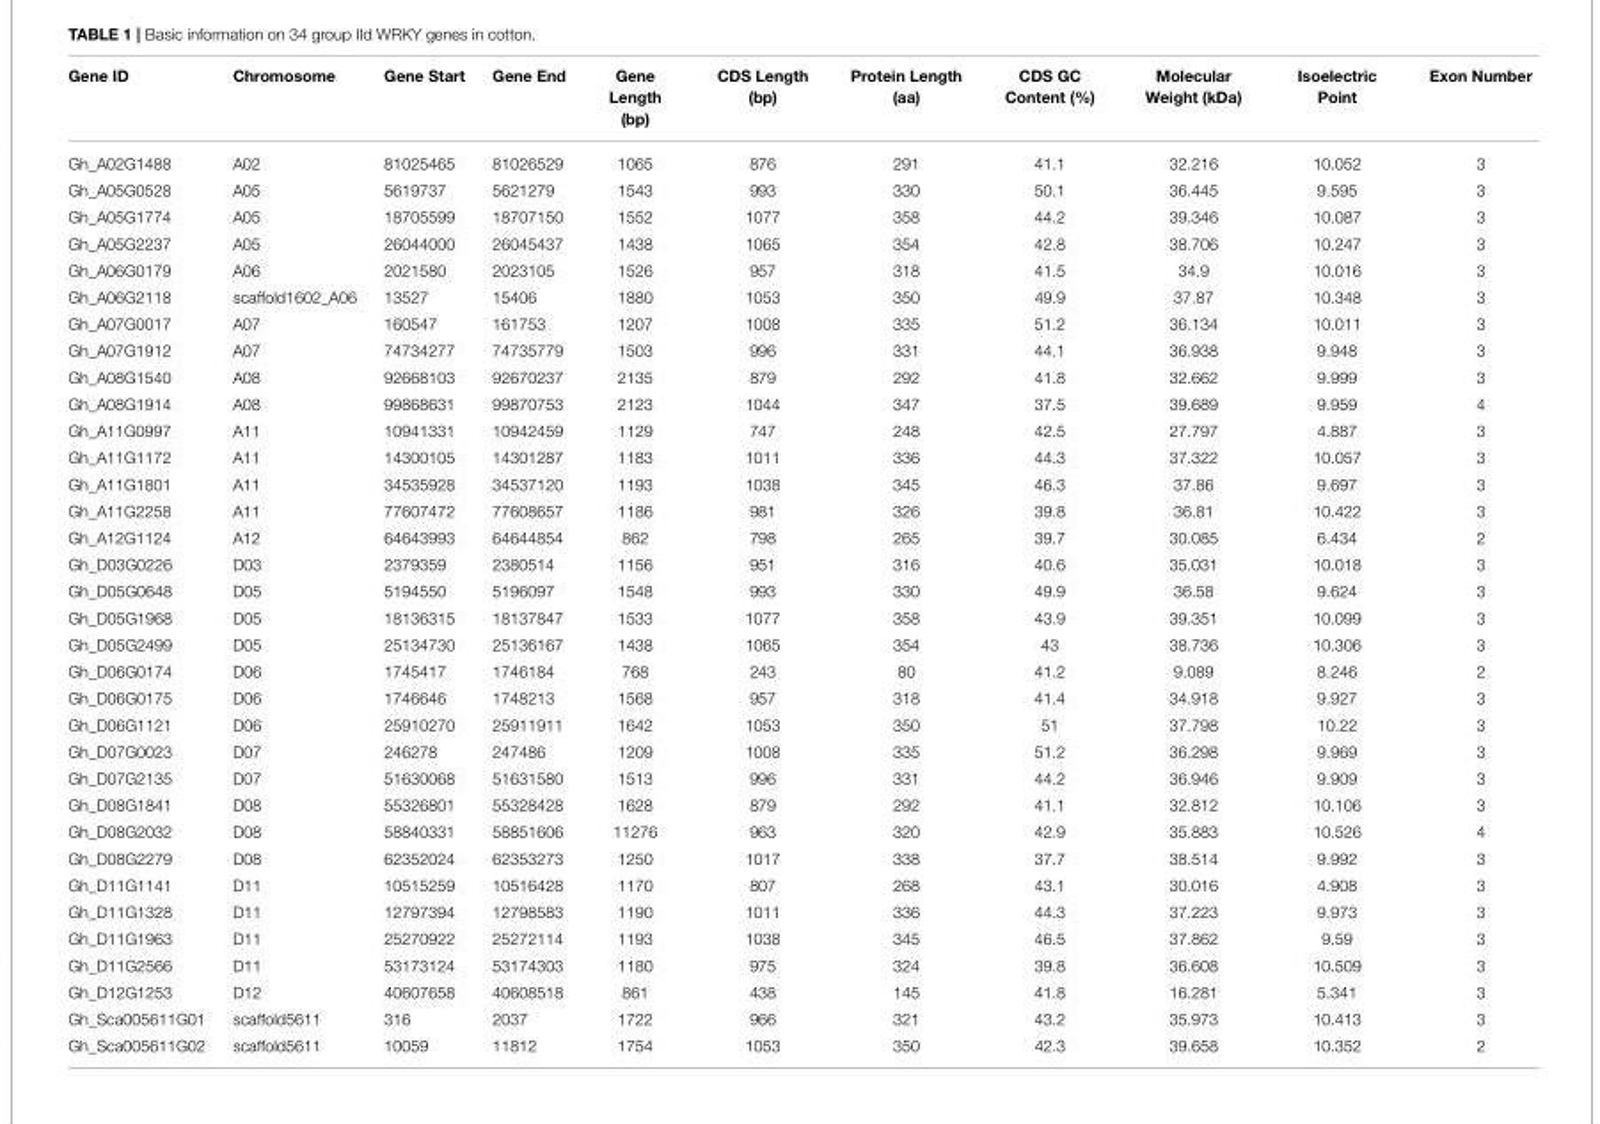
<table><thead><tr><td>Gene ID</td><td>Chromosome</td><td>Gene Start</td><td>Gene End</td><td>Gene Length (bp)</td><td>CDS Length (bp)</td><td>Protein Length (aa)</td><td>CDS GC Content (%)</td><td>Molecular Weight (kDa)</td><td>Isoelectric Point</td><td>Exon Number</td></tr></thead><tbody><tr><td>Gh_A02G1488</td><td>A02</td><td>81025465</td><td>81026529</td><td>1065</td><td>876</td><td>291</td><td>41.1</td><td>32.216</td><td>10.052</td><td>3</td></tr><tr><td>Gh_A05G0528</td><td>A05</td><td>5619737</td><td>5621279</td><td>1543</td><td>993</td><td>330</td><td>50.1</td><td>36.445</td><td>9.595</td><td>3</td></tr><tr><td>Gh_A05G1774</td><td>A05</td><td>18705599</td><td>18707150</td><td>1552</td><td>1077</td><td>358</td><td>44.2</td><td>39.346</td><td>10.087</td><td>3</td></tr><tr><td>Gh_A05G2237</td><td>A05</td><td>26044000</td><td>26045437</td><td>1438</td><td>1065</td><td>354</td><td>42.8</td><td>38.706</td><td>10.247</td><td>3</td></tr><tr><td>Gh_A06G0179</td><td>A06</td><td>2021580</td><td>2023105</td><td>1526</td><td>957</td><td>318</td><td>41.5</td><td>34.9</td><td>10.016</td><td>3</td></tr><tr><td>Gh_A06G2118</td><td>scaffold1602_A06</td><td>13527</td><td>15406</td><td>1880</td><td>1053</td><td>350</td><td>49.9</td><td>37.87</td><td>10.348</td><td>3</td></tr><tr><td>Gh_A07G0017</td><td>A07</td><td>160547</td><td>161753</td><td>1207</td><td>1008</td><td>335</td><td>51.2</td><td>36.134</td><td>10.011</td><td>3</td></tr><tr><td>Gh_A07G1912</td><td>A07</td><td>74734277</td><td>74735779</td><td>1503</td><td>996</td><td>331</td><td>44.1</td><td>36.938</td><td>9.948</td><td>3</td></tr><tr><td>Gh_A08G1540</td><td>A08</td><td>92668103</td><td>92670237</td><td>2135</td><td>879</td><td>292</td><td>41.8</td><td>32.662</td><td>9.999</td><td>3</td></tr><tr><td>Gh_A08G1914</td><td>A08</td><td>99868631</td><td>99870753</td><td>2123</td><td>1044</td><td>347</td><td>37.5</td><td>39.689</td><td>9.959</td><td>4</td></tr><tr><td>Gh_A11G0997</td><td>A11</td><td>10941331</td><td>10942459</td><td>1129</td><td>747</td><td>248</td><td>42.5</td><td>27.797</td><td>4.887</td><td>3</td></tr><tr><td>Gh_A11G1172</td><td>A11</td><td>14300105</td><td>14301287</td><td>1183</td><td>1011</td><td>336</td><td>44.3</td><td>37.322</td><td>10.057</td><td>3</td></tr><tr><td>Gh_A11G1801</td><td>A11</td><td>34535928</td><td>34537120</td><td>1193</td><td>1038</td><td>345</td><td>46.3</td><td>37.86</td><td>9.697</td><td>3</td></tr><tr><td>Gh_A11G2258</td><td>A11</td><td>77607472</td><td>77608657</td><td>1186</td><td>981</td><td>326</td><td>39.8</td><td>36.81</td><td>10.422</td><td>3</td></tr><tr><td>Gh_A12G1124</td><td>A12</td><td>64643993</td><td>64644854</td><td>862</td><td>798</td><td>265</td><td>39.7</td><td>30.085</td><td>6.434</td><td>2</td></tr><tr><td>Gh_D03G0226</td><td>D03</td><td>2379359</td><td>2380514</td><td>1156</td><td>951</td><td>316</td><td>40.6</td><td>35.031</td><td>10.018</td><td>3</td></tr><tr><td>Gh_D05G0648</td><td>D05</td><td>5194550</td><td>5196097</td><td>1548</td><td>993</td><td>330</td><td>49.9</td><td>36.58</td><td>9.624</td><td>3</td></tr><tr><td>Gh_D05G1968</td><td>D05</td><td>18136315</td><td>18137847</td><td>1533</td><td>1077</td><td>358</td><td>43.9</td><td>39.351</td><td>10.099</td><td>3</td></tr><tr><td>Gh_D05G2499</td><td>D05</td><td>25134730</td><td>25136167</td><td>1438</td><td>1065</td><td>354</td><td>43</td><td>38.736</td><td>10.306</td><td>3</td></tr><tr><td>Gh_D06G0174</td><td>D06</td><td>1745417</td><td>1746184</td><td>768</td><td>243</td><td>80</td><td>41.2</td><td>9.089</td><td>8.246</td><td>2</td></tr><tr><td>Gh_D06G0175</td><td>D06</td><td>1746646</td><td>1748213</td><td>1568</td><td>957</td><td>318</td><td>41.4</td><td>34.918</td><td>9.927</td><td>3</td></tr><tr><td>Gh_D06G1121</td><td>D06</td><td>25910270</td><td>25911911</td><td>1642</td><td>1053</td><td>350</td><td>51</td><td>37.798</td><td>10.22</td><td>3</td></tr><tr><td>Gh_D07G0023</td><td>D07</td><td>246278</td><td>247486</td><td>1209</td><td>1008</td><td>335</td><td>51.2</td><td>36.298</td><td>9.969</td><td>3</td></tr><tr><td>Gh_D07G2135</td><td>D07</td><td>51630068</td><td>51631580</td><td>1513</td><td>996</td><td>331</td><td>44.2</td><td>36.946</td><td>9.909</td><td>3</td></tr><tr><td>Gh_D08G1841</td><td>D08</td><td>55326801</td><td>55328428</td><td>1628</td><td>879</td><td>292</td><td>41.1</td><td>32.812</td><td>10.106</td><td>3</td></tr><tr><td>Gh_D08G2032</td><td>D08</td><td>58840331</td><td>58851606</td><td>11276</td><td>963</td><td>320</td><td>42.9</td><td>35.883</td><td>10.526</td><td>4</td></tr><tr><td>Gh_D08G2279</td><td>D08</td><td>62352024</td><td>62353273</td><td>1250</td><td>1017</td><td>338</td><td>37.7</td><td>38.514</td><td>9.992</td><td>3</td></tr><tr><td>Gh_D11G1141</td><td>D11</td><td>10515259</td><td>10516428</td><td>1170</td><td>807</td><td>268</td><td>43.1</td><td>30.016</td><td>4.908</td><td>3</td></tr><tr><td>Gh_D11G1328</td><td>D11</td><td>12797394</td><td>12798583</td><td>1190</td><td>1011</td><td>336</td><td>44.3</td><td>37.223</td><td>9.973</td><td>3</td></tr><tr><td>Gh_D11G1963</td><td>D11</td><td>25270922</td><td>25272114</td><td>1193</td><td>1038</td><td>345</td><td>46.5</td><td>37.862</td><td>9.59</td><td>3</td></tr><tr><td>Gh_D11G2566</td><td>D11</td><td>53173124</td><td>53174303</td><td>1180</td><td>975</td><td>324</td><td>39.8</td><td>36.608</td><td>10.509</td><td>3</td></tr><tr><td>Gh_D12G1253</td><td>D12</td><td>40607658</td><td>40608518</td><td>861</td><td>438</td><td>145</td><td>41.8</td><td>16.281</td><td>5.341</td><td>3</td></tr><tr><td>Gh_Sca005611G01</td><td>scaffold5611</td><td>316</td><td>2037</td><td>1722</td><td>966</td><td>321</td><td>43.2</td><td>35.973</td><td>10.413</td><td>3</td></tr><tr><td>Gh_Sca005611G02</td><td>scaffold5611</td><td>10059</td><td>11812</td><td>1754</td><td>1053</td><td>350</td><td>42.3</td><td>39.658</td><td>10.352</td><td>2</td></tr></tbody></table>